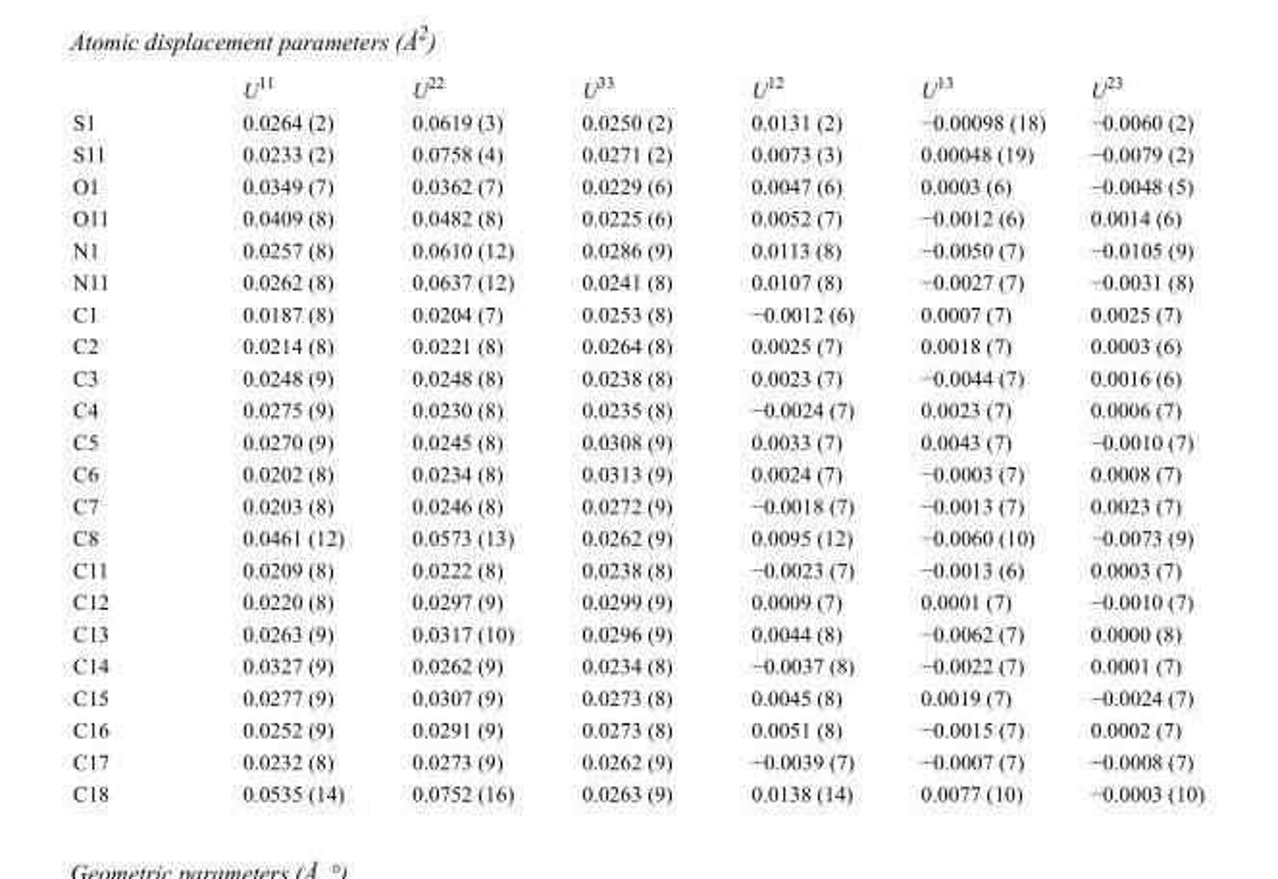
<table><thead><tr><td></td><td>U<sup>11</sup></td><td>U<sup>22</sup></td><td>U<sup>33</sup></td><td>U<sup>12</sup></td><td>U<sup>13</sup></td><td>U<sup>23</sup></td></tr></thead><tbody><tr><td>S1</td><td>0.0264 (2)</td><td>0.0619 (3)</td><td>0.0250 (2)</td><td>0.0131 (2)</td><td>−0.00098 (18)</td><td>−0.0060 (2)</td></tr><tr><td>S11</td><td>0.0233 (2)</td><td>0.0758 (4)</td><td>0.0271 (2)</td><td>0.0073 (3)</td><td>0.00048 (19)</td><td>−0.0079 (2)</td></tr><tr><td>O1</td><td>0.0349 (7)</td><td>0.0362 (7)</td><td>0.0229 (6)</td><td>0.0047 (6)</td><td>0.0003 (6)</td><td>−0.0048 (5)</td></tr><tr><td>O11</td><td>0.0409 (8)</td><td>0.0482 (8)</td><td>0.0225 (6)</td><td>0.0052 (7)</td><td>−0.0012 (6)</td><td>0.0014 (6)</td></tr><tr><td>N1</td><td>0.0257 (8)</td><td>0.0610 (12)</td><td>0.0286 (9)</td><td>0.0113 (8)</td><td>−0.0050 (7)</td><td>−0.0105 (9)</td></tr><tr><td>N11</td><td>0.0262 (8)</td><td>0.0637 (12)</td><td>0.0241 (8)</td><td>0.0107 (8)</td><td>−0.0027 (7)</td><td>−0.0031 (8)</td></tr><tr><td>C1</td><td>0.0187 (8)</td><td>0.0204 (7)</td><td>0.0253 (8)</td><td>−0.0012 (6)</td><td>0.0007 (7)</td><td>0.0025 (7)</td></tr><tr><td>C2</td><td>0.0214 (8)</td><td>0.0221 (8)</td><td>0.0264 (8)</td><td>0.0025 (7)</td><td>0.0018 (7)</td><td>0.0003 (6)</td></tr><tr><td>C3</td><td>0.0248 (9)</td><td>0.0248 (8)</td><td>0.0238 (8)</td><td>0.0023 (7)</td><td>−0.0044 (7)</td><td>0.0016 (6)</td></tr><tr><td>C4</td><td>0.0275 (9)</td><td>0.0230 (8)</td><td>0.0235 (8)</td><td>−0.0024 (7)</td><td>0.0023 (7)</td><td>0.0006 (7)</td></tr><tr><td>C5</td><td>0.0270 (9)</td><td>0.0245 (8)</td><td>0.0308 (9)</td><td>0.0033 (7)</td><td>0.0043 (7)</td><td>−0.0010 (7)</td></tr><tr><td>C6</td><td>0.0202 (8)</td><td>0.0234 (8)</td><td>0.0313 (9)</td><td>0.0024 (7)</td><td>−0.0003 (7)</td><td>0.0008 (7)</td></tr><tr><td>C7</td><td>0.0203 (8)</td><td>0.0246 (8)</td><td>0.0272 (9)</td><td>−0.0018 (7)</td><td>−0.0013 (7)</td><td>0.0023 (7)</td></tr><tr><td>C8</td><td>0.0461 (12)</td><td>0.0573 (13)</td><td>0.0262 (9)</td><td>0.0095 (12)</td><td>−0.0060 (10)</td><td>−0.0073 (9)</td></tr><tr><td>C11</td><td>0.0209 (8)</td><td>0.0222 (8)</td><td>0.0238 (8)</td><td>−0.0023 (7)</td><td>−0.0013 (6)</td><td>0.0003 (7)</td></tr><tr><td>C12</td><td>0.0220 (8)</td><td>0.0297 (9)</td><td>0.0299 (9)</td><td>0.0009 (7)</td><td>0.0001 (7)</td><td>−0.0010 (7)</td></tr><tr><td>C13</td><td>0.0263 (9)</td><td>0.0317 (10)</td><td>0.0296 (9)</td><td>0.0044 (8)</td><td>−0.0062 (7)</td><td>0.0000 (8)</td></tr><tr><td>C14</td><td>0.0327 (9)</td><td>0.0262 (9)</td><td>0.0234 (8)</td><td>−0.0037 (8)</td><td>−0.0022 (7)</td><td>0.0001 (7)</td></tr><tr><td>C15</td><td>0.0277 (9)</td><td>0.0307 (9)</td><td>0.0273 (8)</td><td>0.0045 (8)</td><td>0.0019 (7)</td><td>−0.0024 (7)</td></tr><tr><td>C16</td><td>0.0252 (9)</td><td>0.0291 (9)</td><td>0.0273 (8)</td><td>0.0051 (8)</td><td>−0.0015 (7)</td><td>0.0002 (7)</td></tr><tr><td>C17</td><td>0.0232 (8)</td><td>0.0273 (9)</td><td>0.0262 (9)</td><td>−0.0039 (7)</td><td>−0.0007 (7)</td><td>−0.0008 (7)</td></tr><tr><td>C18</td><td>0.0535 (14)</td><td>0.0752 (16)</td><td>0.0263 (9)</td><td>0.0138 (14)</td><td>0.0077 (10)</td><td>−0.0003 (10)</td></tr></tbody></table>